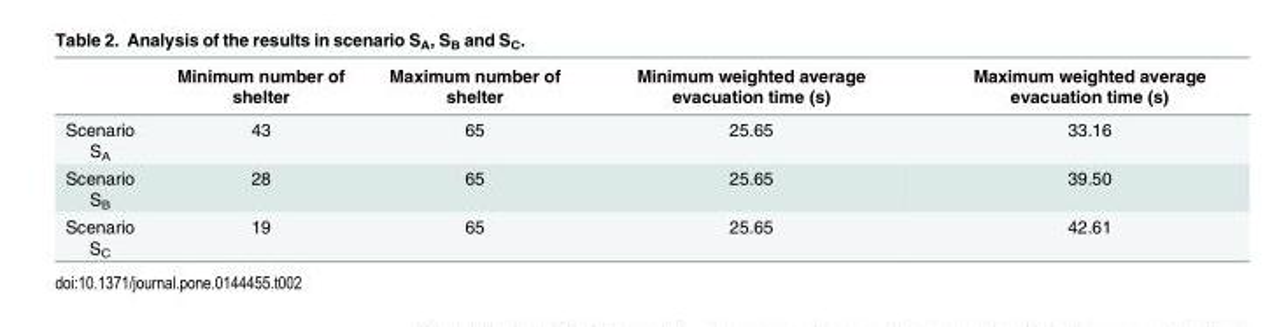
<table><thead><tr><td></td><td>Minimum number of shelter</td><td>Maximum number of shelter</td><td>Minimum weighted average evacuation time (s)</td><td>Maximum weighted average evacuation time (s)</td></tr></thead><tbody><tr><td>Scenario S<sub>A</sub></td><td>43</td><td>65</td><td>25.65</td><td>33.16</td></tr><tr><td>Scenario S<sub>B</sub></td><td>28</td><td>65</td><td>25.65</td><td>39.50</td></tr><tr><td>Scenario S<sub>C</sub></td><td>19</td><td>65</td><td>25.65</td><td>42.61</td></tr></tbody></table>